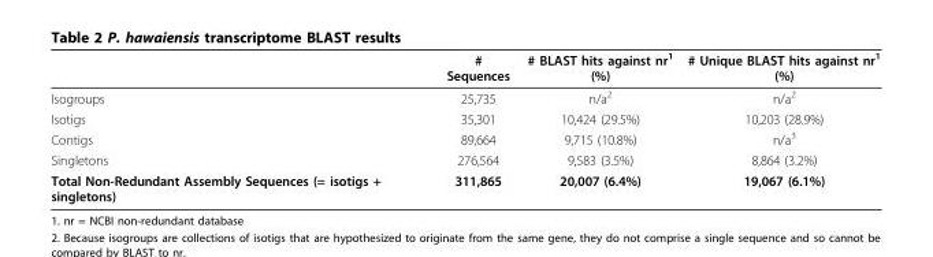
<table><thead><tr><td></td><td># Sequences</td><td># BLAST hits against nr<sup>1</sup> (%)</td><td># Unique BLAST hits against nr<sup>1</sup> (%)</td></tr></thead><tbody><tr><td>Isogroups</td><td>25,735</td><td>n/a<sup>2</sup></td><td>n/a<sup>2</sup></td></tr><tr><td>Isotigs</td><td>35,301</td><td>10,424 (29.5%)</td><td>10,203 (28.9%)</td></tr><tr><td>Contigs</td><td>89,664</td><td>9,715 (10.8%)</td><td>n/a<sup>3</sup></td></tr><tr><td>Singletons</td><td>276,564</td><td>9,583 (3.5%)</td><td>8,864 (3.2%)</td></tr><tr><td>Total Non-Redundant Assembly Sequences (= isotigs + singletons)</td><td>311,865</td><td>20,007 (6.4%)</td><td>19,067 (6.1%)</td></tr></tbody></table>